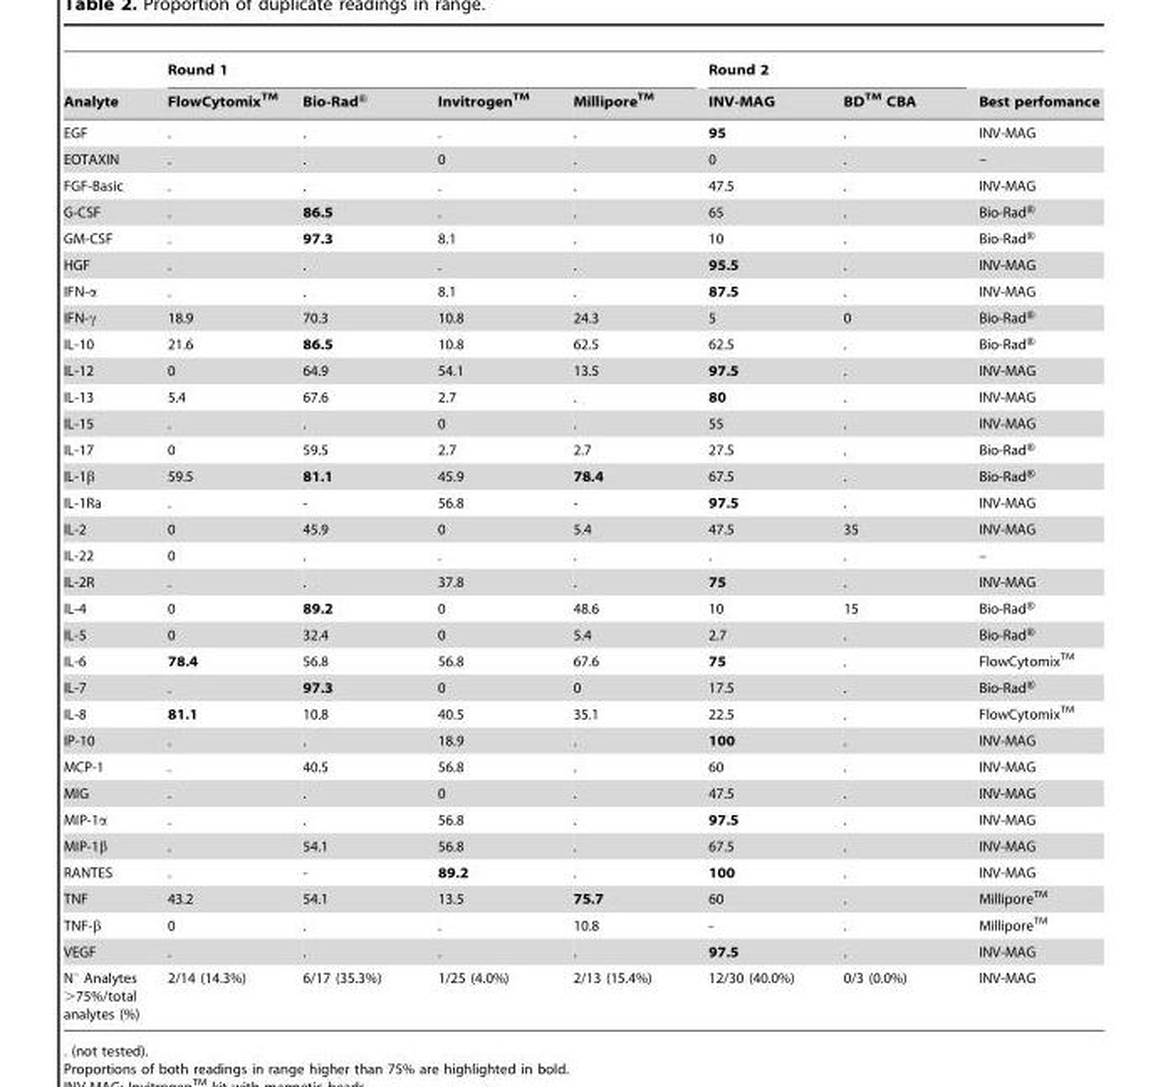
<table><thead><tr><td rowspan="2">Analyte</td><td colspan="4">Round 1</td><td colspan="2">Round 2</td><td rowspan="2">Best perfomance</td></tr><tr><td>FlowCytomixTM</td><td>Bio-Rad®</td><td>InvitrogenTM</td><td>MilliporeTM</td><td>INV-MAG</td><td>BDTM CBA</td></tr></thead><tbody><tr><td>EGF</td><td>.</td><td>.</td><td>.</td><td>.</td><td>95</td><td>.</td><td>INV-MAG</td></tr><tr><td>EOTAXIN</td><td>.</td><td>.</td><td>0</td><td>.</td><td>0</td><td>.</td><td>–</td></tr><tr><td>FGF-Basic</td><td>.</td><td>.</td><td>.</td><td>.</td><td>47.5</td><td>.</td><td>INV-MAG</td></tr><tr><td>G-CSF</td><td>.</td><td>86.5</td><td>.</td><td>.</td><td>65</td><td>.</td><td>Bio-Rad®</td></tr><tr><td>GM-CSF</td><td>.</td><td>97.3</td><td>8.1</td><td>.</td><td>10</td><td>.</td><td>Bio-Rad®</td></tr><tr><td>HGF</td><td>.</td><td>.</td><td>.</td><td>.</td><td>95.5</td><td>.</td><td>INV-MAG</td></tr><tr><td>IFN-α</td><td>.</td><td>.</td><td>8.1</td><td>.</td><td>87.5</td><td>.</td><td>INV-MAG</td></tr><tr><td>IFN-γ</td><td>18.9</td><td>70.3</td><td>10.8</td><td>24.3</td><td>5</td><td>0</td><td>Bio-Rad®</td></tr><tr><td>IL-10</td><td>21.6</td><td>86.5</td><td>10.8</td><td>62.5</td><td>62.5</td><td>.</td><td>Bio-Rad®</td></tr><tr><td>IL-12</td><td>0</td><td>64.9</td><td>54.1</td><td>13.5</td><td>97.5</td><td>.</td><td>INV-MAG</td></tr><tr><td>IL-13</td><td>5.4</td><td>67.6</td><td>2.7</td><td>.</td><td>80</td><td>.</td><td>INV-MAG</td></tr><tr><td>IL-15</td><td>.</td><td>.</td><td>0</td><td>.</td><td>55</td><td>.</td><td>INV-MAG</td></tr><tr><td>IL-17</td><td>0</td><td>59.5</td><td>2.7</td><td>2.7</td><td>27.5</td><td>.</td><td>Bio-Rad®</td></tr><tr><td>IL-1β</td><td>59.5</td><td>81.1</td><td>45.9</td><td>78.4</td><td>67.5</td><td>.</td><td>Bio-Rad®</td></tr><tr><td>IL-1Ra</td><td>.</td><td>-</td><td>56.8</td><td>-</td><td>97.5</td><td>.</td><td>INV-MAG</td></tr><tr><td>IL-2</td><td>0</td><td>45.9</td><td>0</td><td>5.4</td><td>47.5</td><td>35</td><td>INV-MAG</td></tr><tr><td>IL-22</td><td>0</td><td>.</td><td>.</td><td>.</td><td>.</td><td>.</td><td>–</td></tr><tr><td>IL-2R</td><td>.</td><td>.</td><td>37.8</td><td>.</td><td>75</td><td>.</td><td>INV-MAG</td></tr><tr><td>IL-4</td><td>0</td><td>89.2</td><td>0</td><td>48.6</td><td>10</td><td>15</td><td>Bio-Rad®</td></tr><tr><td>IL-5</td><td>0</td><td>32.4</td><td>0</td><td>5.4</td><td>2.7</td><td>.</td><td>Bio-Rad®</td></tr><tr><td>IL-6</td><td>78.4</td><td>56.8</td><td>56.8</td><td>67.6</td><td>75</td><td>.</td><td>FlowCytomixTM</td></tr><tr><td>IL-7</td><td>.</td><td>97.3</td><td>0</td><td>0</td><td>17.5</td><td>.</td><td>Bio-Rad®</td></tr><tr><td>IL-8</td><td>81.1</td><td>10.8</td><td>40.5</td><td>35.1</td><td>22.5</td><td>.</td><td>FlowCytomixTM</td></tr><tr><td>IP-10</td><td>.</td><td>.</td><td>18.9</td><td>.</td><td>100</td><td>.</td><td>INV-MAG</td></tr><tr><td>MCP-1</td><td>.</td><td>40.5</td><td>56.8</td><td>.</td><td>60</td><td>.</td><td>INV-MAG</td></tr><tr><td>MIG</td><td>.</td><td>.</td><td>0</td><td>.</td><td>47.5</td><td>.</td><td>INV-MAG</td></tr><tr><td>MIP-1α</td><td>.</td><td>.</td><td>56.8</td><td>.</td><td>97.5</td><td>.</td><td>INV-MAG</td></tr><tr><td>MIP-1β</td><td>.</td><td>54.1</td><td>56.8</td><td>.</td><td>67.5</td><td>.</td><td>INV-MAG</td></tr><tr><td>RANTES</td><td>.</td><td>-</td><td>89.2</td><td>.</td><td>100</td><td>.</td><td>INV-MAG</td></tr><tr><td>TNF</td><td>43.2</td><td>54.1</td><td>13.5</td><td>75.7</td><td>60</td><td>.</td><td>MilliporeTM</td></tr><tr><td>TNF-β</td><td>0</td><td>.</td><td>.</td><td>10.8</td><td>-</td><td>.</td><td>MilliporeTM</td></tr><tr><td>VEGF</td><td>.</td><td>.</td><td>.</td><td>.</td><td>97.5</td><td>.</td><td>INV-MAG</td></tr><tr><td>N° Analytes &gt;75%/total analytes (%)</td><td>2/14 (14.3%)</td><td>6/17 (35.3%)</td><td>1/25 (4.0%)</td><td>2/13 (15.4%)</td><td>12/30 (40.0%)</td><td>0/3 (0.0%)</td><td>INV-MAG</td></tr></tbody></table>